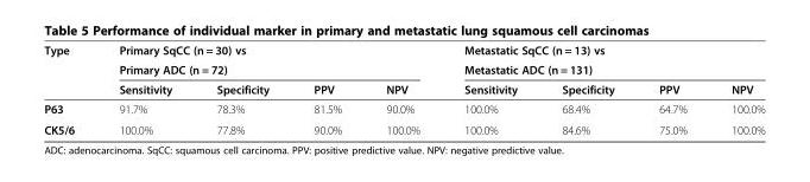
<table><thead><tr><td rowspan="3">Type</td><td rowspan="2" colspan="4">Primary SqCC (n = 30) vs Primary ADC (n = 72)</td><td rowspan="2" colspan="4">Metastatic SqCC (n = 13) vs Metastatic ADC (n = 131)</td></tr><tr></tr><tr><td>Sensitivity</td><td>Specificity</td><td>PPV</td><td>NPV</td><td>Sensitivity</td><td>Specificity</td><td>PPV</td><td>NPV</td></tr></thead><tbody><tr><td>P63</td><td>91.7%</td><td>78.3%</td><td>81.5%</td><td>90.0%</td><td>100.0%</td><td>68.4%</td><td>64.7%</td><td>100.0%</td></tr><tr><td>CK5/6</td><td>100.0%</td><td>77.8%</td><td>90.0%</td><td>100.0%</td><td>100.0%</td><td>84.6%</td><td>75.0%</td><td>100.0%</td></tr></tbody></table>